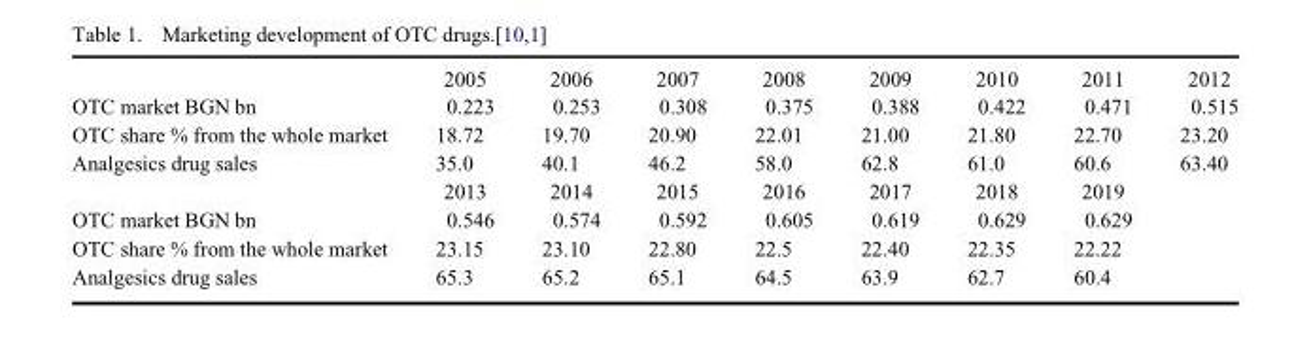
<table><thead><tr><td></td><td>2005</td><td>2006</td><td>2007</td><td>2008</td><td>2009</td><td>2010</td><td>2011</td><td>2012</td></tr></thead><tbody><tr><td>OTC market BGN bn</td><td>0.223</td><td>0.253</td><td>0.308</td><td>0.375</td><td>0.388</td><td>0.422</td><td>0.471</td><td>0.515</td></tr><tr><td>OTC share % from the whole market</td><td>18.72</td><td>19.70</td><td>20.90</td><td>22.01</td><td>21.00</td><td>21.80</td><td>22.70</td><td>23.20</td></tr><tr><td rowspan="2">Analgesics drug sales</td><td>35.0</td><td>40.1</td><td>46.2</td><td>58.0</td><td>62.8</td><td>61.0</td><td>60.6</td><td>63.40</td></tr><tr><td>2013</td><td>2014</td><td>2015</td><td>2016</td><td>2017</td><td>2018</td><td>2019</td><td></td></tr><tr><td>OTC market BGN bn</td><td>0.546</td><td>0.574</td><td>0.592</td><td>0.605</td><td>0.619</td><td>0.629</td><td>0.629</td><td></td></tr><tr><td>OTC share % from the whole market</td><td>23.15</td><td>23.10</td><td>22.80</td><td>22.5</td><td>22.40</td><td>22.35</td><td>22.22</td><td></td></tr><tr><td>Analgesics drug sales</td><td>65.3</td><td>65.2</td><td>65.1</td><td>64.5</td><td>63.9</td><td>62.7</td><td>60.4</td><td></td></tr></tbody></table>